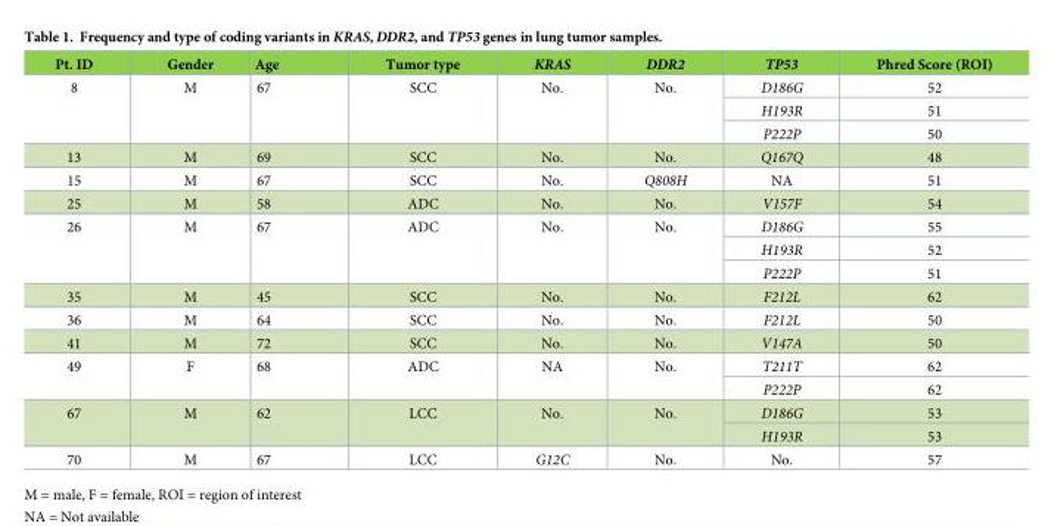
<table><thead><tr><td>Pt. ID</td><td>Gender</td><td>Age</td><td>Tumor type</td><td>KRAS</td><td>DDR2</td><td>TP53</td><td>Phred Score (ROI)</td></tr></thead><tbody><tr><td rowspan="3">8</td><td rowspan="3">M</td><td rowspan="3">67</td><td rowspan="3">SCC</td><td rowspan="3">No.</td><td rowspan="3">No.</td><td>D186G</td><td>52</td></tr><tr><td>H193R</td><td>51</td></tr><tr><td>P222P</td><td>50</td></tr><tr><td>13</td><td>M</td><td>69</td><td>SCC</td><td>No.</td><td>No.</td><td>Q167Q</td><td>48</td></tr><tr><td>15</td><td>M</td><td>67</td><td>SCC</td><td>No.</td><td>Q808H</td><td>NA</td><td>51</td></tr><tr><td>25</td><td>M</td><td>58</td><td>ADC</td><td>No.</td><td>No.</td><td>V157F</td><td>54</td></tr><tr><td rowspan="3">26</td><td rowspan="3">M</td><td rowspan="3">67</td><td rowspan="3">ADC</td><td rowspan="3">No.</td><td rowspan="3">No.</td><td>D186G</td><td>55</td></tr><tr><td>H193R</td><td>52</td></tr><tr><td>P222P</td><td>51</td></tr><tr><td>35</td><td>M</td><td>45</td><td>SCC</td><td>No.</td><td>No.</td><td>F212L</td><td>62</td></tr><tr><td>36</td><td>M</td><td>64</td><td>SCC</td><td>No.</td><td>No.</td><td>F212L</td><td>50</td></tr><tr><td>41</td><td>M</td><td>72</td><td>SCC</td><td>No.</td><td>No.</td><td>V147A</td><td>50</td></tr><tr><td rowspan="2">49</td><td rowspan="2">F</td><td rowspan="2">68</td><td rowspan="2">ADC</td><td rowspan="2">NA</td><td rowspan="2">No.</td><td>T211T</td><td>62</td></tr><tr><td>P222P</td><td>62</td></tr><tr><td rowspan="2">67</td><td rowspan="2">M</td><td rowspan="2">62</td><td rowspan="2">LCC</td><td rowspan="2">No.</td><td rowspan="2">No.</td><td>D186G</td><td>53</td></tr><tr><td>H193R</td><td>53</td></tr><tr><td>70</td><td>M</td><td>67</td><td>LCC</td><td>G12C</td><td>No.</td><td>No.</td><td>57</td></tr></tbody></table>